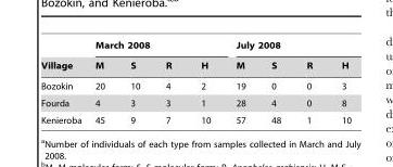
<table><thead><tr><td rowspan="2">Village</td><td colspan="4">March 2008</td><td colspan="4">July 2008</td></tr><tr><td>M</td><td>S</td><td>R</td><td>H</td><td>M</td><td>S</td><td>R</td><td>H</td></tr></thead><tbody><tr><td>Bozokin</td><td>20</td><td>10</td><td>4</td><td>2</td><td>19</td><td>0</td><td>0</td><td>3</td></tr><tr><td>Fourda</td><td>4</td><td>3</td><td>3</td><td>1</td><td>28</td><td>4</td><td>0</td><td>8</td></tr><tr><td>Kenieroba</td><td>45</td><td>9</td><td>7</td><td>10</td><td>57</td><td>48</td><td>1</td><td>10</td></tr></tbody></table>